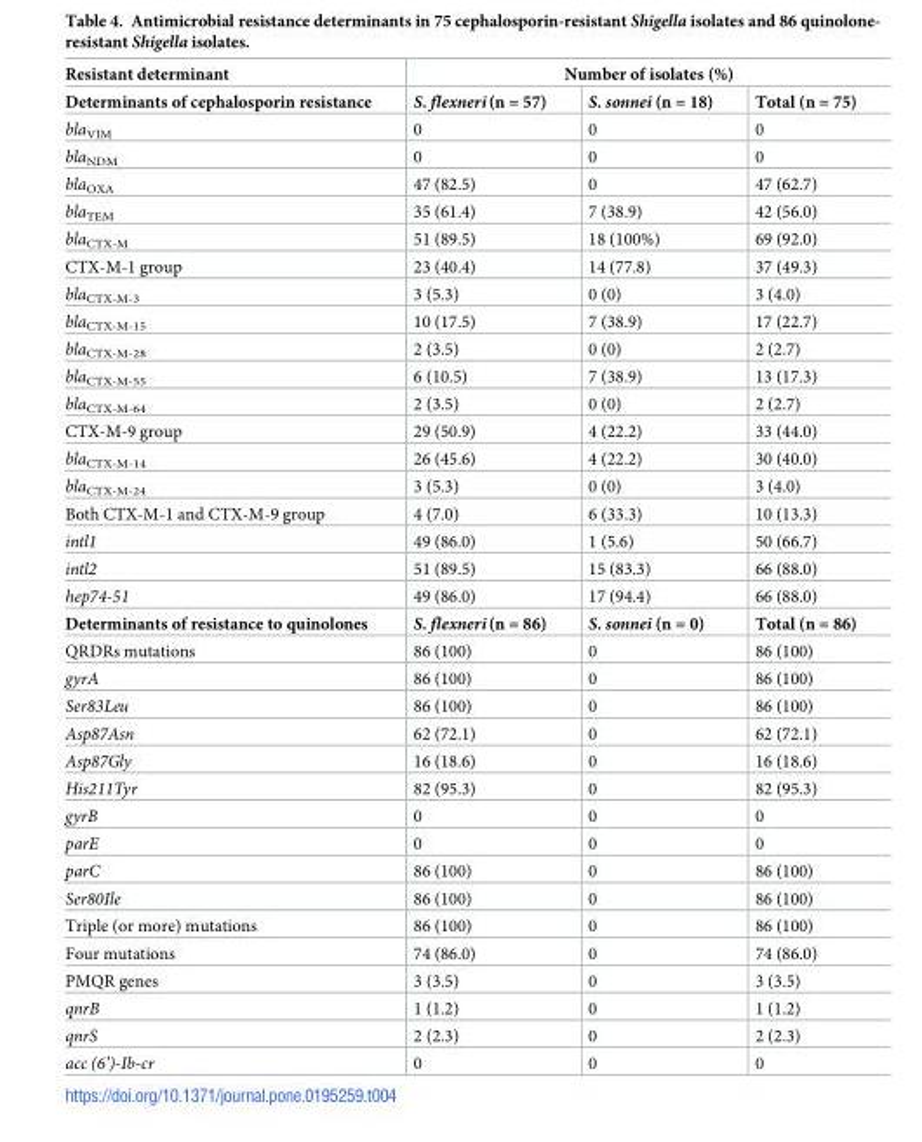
<table><thead><tr><td rowspan="2">Resistant determinant Determinants of cephalosporin resistance</td><td colspan="3">Number of isolates (%)</td></tr><tr><td>S. flexneri(n = 57)</td><td>S. sonnei (n = 18)</td><td>Total (n = 75)</td></tr></thead><tbody><tr><td>bla<sub>VIM</sub></td><td>0</td><td>0</td><td>0</td></tr><tr><td>bla<sub>NDM</sub></td><td>0</td><td>0</td><td>0</td></tr><tr><td>bla<sub>OXA</sub></td><td>47 (82.5)</td><td>0</td><td>47 (62.7)</td></tr><tr><td>bla<sub>TEM</sub></td><td>35 (61.4)</td><td>7 (38.9)</td><td>42 (56.0)</td></tr><tr><td>bla<sub>CTX-M</sub></td><td>51 (89.5)</td><td>18 (100%)</td><td>69 (92.0)</td></tr><tr><td>CTX-M-1 group</td><td>23 (40.4)</td><td>14 (77.8)</td><td>37 (49.3)</td></tr><tr><td>bla<sub>CTX-M-3</sub></td><td>3 (5.3)</td><td>0 (0)</td><td>3 (4.0)</td></tr><tr><td>bla<sub>CTX-M-15</sub></td><td>10 (17.5)</td><td>7 (38.9)</td><td>17 (22.7)</td></tr><tr><td>bla<sub>CTX-M-28</sub></td><td>2 (3.5)</td><td>0 (0)</td><td>2 (2.7)</td></tr><tr><td>bla<sub>CTX-M-55</sub></td><td>6 (10.5)</td><td>7 (38.9)</td><td>13 (17.3)</td></tr><tr><td>bla<sub>CTX-M-64</sub></td><td>2 (3.5)</td><td>0 (0)</td><td>2 (2.7)</td></tr><tr><td>CTX-M-9 group</td><td>29 (50.9)</td><td>4 (22.2)</td><td>33 (44.0)</td></tr><tr><td>bla<sub>CTX-M-14</sub></td><td>26 (45.6)</td><td>4 (22.2)</td><td>30 (40.0)</td></tr><tr><td>bla<sub>CTX-M-24</sub></td><td>3 (5.3)</td><td>0 (0)</td><td>3 (4.0)</td></tr><tr><td>Both CTX-M-1 and CTX-M-9 group</td><td>4 (7.0)</td><td>6 (33.3)</td><td>10 (13.3)</td></tr><tr><td>intl1</td><td>49 (86.0)</td><td>1 (5.6)</td><td>50 (66.7)</td></tr><tr><td>intl2</td><td>51 (89.5)</td><td>15 (83.3)</td><td>66 (88.0)</td></tr><tr><td>hep74-51</td><td>49 (86.0)</td><td>17 (94.4)</td><td>66 (88.0)</td></tr><tr><td>Determinants of resistance to quinolones</td><td>S. flexneri(n = 86)</td><td>S. sonnei (n = 0)</td><td>Total (n = 86)</td></tr><tr><td>QRDRs mutations</td><td>86 (100)</td><td>0</td><td>86 (100)</td></tr><tr><td>gyrA</td><td>86 (100)</td><td>0</td><td>86 (100)</td></tr><tr><td>Ser83Leu</td><td>86 (100)</td><td>0</td><td>86 (100)</td></tr><tr><td>Asp87Asn</td><td>62 (72.1)</td><td>0</td><td>62 (72.1)</td></tr><tr><td>Asp87Gly</td><td>16 (18.6)</td><td>0</td><td>16 (18.6)</td></tr><tr><td>His211Tyr</td><td>82 (95.3)</td><td>0</td><td>82 (95.3)</td></tr><tr><td>gyrB</td><td>0</td><td>0</td><td>0</td></tr><tr><td>parE</td><td>0</td><td>0</td><td>0</td></tr><tr><td>parC</td><td>86 (100)</td><td>0</td><td>86 (100)</td></tr><tr><td>Ser80Ile</td><td>86 (100)</td><td>0</td><td>86 (100)</td></tr><tr><td>Triple (or more) mutations</td><td>86 (100)</td><td>0</td><td>86 (100)</td></tr><tr><td>Four mutations</td><td>74 (86.0)</td><td>0</td><td>74 (86.0)</td></tr><tr><td>PMQR genes</td><td>3 (3.5)</td><td>0</td><td>3 (3.5)</td></tr><tr><td>qnrB</td><td>1 (1.2)</td><td>0</td><td>1 (1.2)</td></tr><tr><td>qnrS</td><td>2 (2.3)</td><td>0</td><td>2 (2.3)</td></tr><tr><td>acc (6’)-Ib-cr</td><td>0</td><td>0</td><td>0</td></tr></tbody></table>